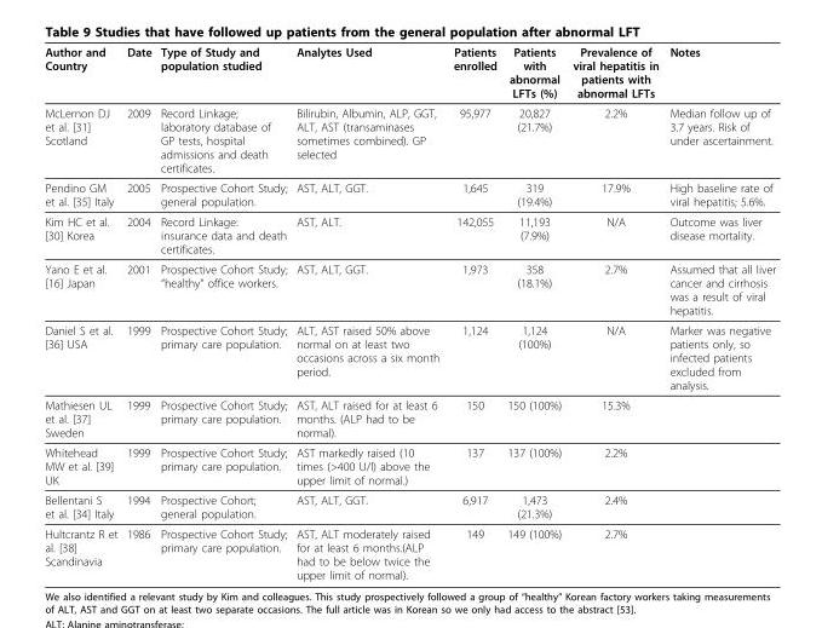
<table><thead><tr><td>Author and Country</td><td>Date</td><td>Type of Study and population studied</td><td>Analytes Used</td><td>Patients enrolled</td><td>Patients with abnormal LFTs (%)</td><td>Prevalence of viral hepatitis in patients with abnormal LFTs</td><td>Notes</td></tr></thead><tbody><tr><td>McLernon DJ et al. [31] Scotland</td><td>2009</td><td>Record Linkage; laboratory database of GP tests, hospital admissions and death certificates.</td><td>Bilirubin, Albumin, ALP, GGT, ALT, AST (transaminases sometimes combined). GP selected</td><td>95,977</td><td>20,827 (21.7%)</td><td>2.2%</td><td>Median follow up of 3.7 years. Risk of under ascertainment.</td></tr><tr><td>Pendino GM et al. [35] Italy</td><td>2005</td><td>Prospective Cohort Study; general population.</td><td>AST, ALT, GGT.</td><td>1,645</td><td>319 (19.4%)</td><td>17.9%</td><td>High baseline rate of viral hepatitis; 5.6%.</td></tr><tr><td>Kim HC et al. [30] Korea</td><td>2004</td><td>Record Linkage: insurance data and death certificates.</td><td>AST, ALT.</td><td>142,055</td><td>11,193 (7.9%)</td><td>N/A</td><td>Outcome was liver disease mortality.</td></tr><tr><td>Yano E et al. [16] Japan</td><td>2001</td><td>Prospective Cohort Study; “healthy” office workers.</td><td>AST, ALT, GGT.</td><td>1,973</td><td>358 (18.1%)</td><td>2.7%</td><td>Assumed that all liver cancer and cirrhosis was a result of viral hepatitis.</td></tr><tr><td>Daniel S et al. [36] USA</td><td>1999</td><td>Prospective Cohort Study; primary care population.</td><td>ALT, AST raised 50% above normal on at least two occasions across a six month period.</td><td>1,124</td><td>1,124 (100%)</td><td>N/A</td><td>Marker was negative patients only, so infected patients excluded from analysis.</td></tr><tr><td>Mathiesen UL et al. [37] Sweden</td><td>1999</td><td>Prospective Cohort Study; primary care population.</td><td>AST, ALT raised for at least 6 months. (ALP had to be normal).</td><td>150</td><td>150 (100%)</td><td>15.3%</td><td></td></tr><tr><td>Whitehead MW et al. [39] UK</td><td>1999</td><td>Prospective Cohort Study; primary care population.</td><td>AST markedly raised (10 times (&gt;400 U/l) above the upper limit of normal.)</td><td>137</td><td>137 (100%)</td><td>2.2%</td><td></td></tr><tr><td>Bellentani S et al. [34] Italy</td><td>1994</td><td>Prospective Cohort; general population.</td><td>AST, ALT, GGT.</td><td>6,917</td><td>1,473 (21.3%)</td><td>2.4%</td><td></td></tr><tr><td>Hultcrantz R et al. [38] Scandinavia</td><td>1986</td><td>Prospective Cohort Study; primary care population.</td><td>AST, ALT moderately raised for at least 6 months.(ALP had to be below twice the upper limit of normal).</td><td>149</td><td>149 (100%)</td><td>2.7%</td><td></td></tr></tbody></table>